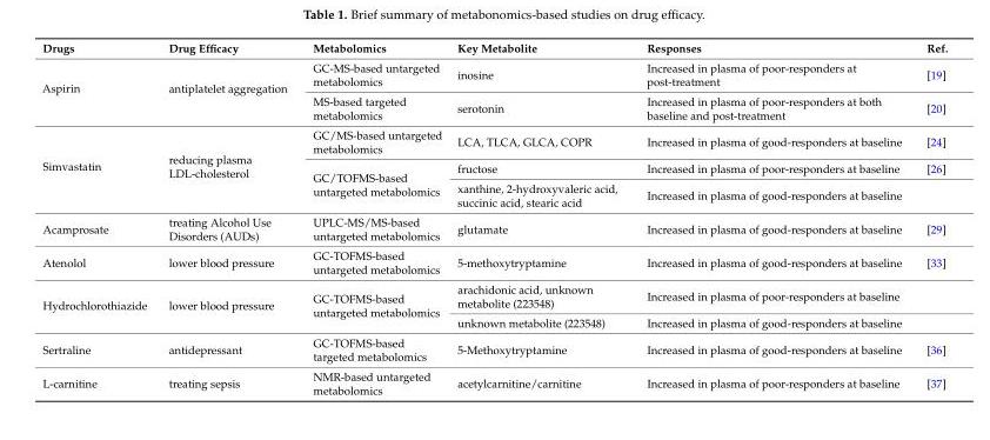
<table><thead><tr><td>Drugs</td><td>Drug Efficacy</td><td>Metabolomics</td><td>Key Metabolite</td><td>Responses</td><td>Ref.</td></tr></thead><tbody><tr><td rowspan="2">Aspirin</td><td rowspan="2">antiplatelet aggregation</td><td>GC-MS-based untargeted metabolomics</td><td>inosine</td><td>Increased in plasma of poor-responders at post-treatment</td><td>[19]</td></tr><tr><td>MS-based targeted metabolomics</td><td>serotonin</td><td>Increased in plasma of poor-responders at both baseline and post-treatment</td><td>[20]</td></tr><tr><td rowspan="3">Simvastatin</td><td rowspan="3">reducing plasma LDL-cholesterol</td><td>GC/MS-based untargeted metabolomics</td><td>LCA, TLCA, GLCA, COPR</td><td>Increased in plasma of good-responders at baseline</td><td>[24]</td></tr><tr><td rowspan="2">GC/TOFMS-based untargeted metabolomics</td><td>fructose</td><td>Increased in plasma of poor-responders at baseline</td><td>[26]</td></tr><tr><td>xanthine, 2-hydroxyvaleric acid, succinic acid, stearic acid</td><td>Increased in plasma of good-responders at baseline</td><td></td></tr><tr><td>Acamprosate</td><td>treating Alcohol Use Disorders (AUDs)</td><td>UPLC-MS/MS-based untargeted metabolomics</td><td>glutamate</td><td>Increased in plasma of good-responders at baseline</td><td>[29]</td></tr><tr><td>Atenolol</td><td>lower blood pressure</td><td>GC-TOFMS-based untargeted metabolomics</td><td>5-methoxytryptamine</td><td>Increased in plasma of good-responders at baseline</td><td>[33]</td></tr><tr><td rowspan="2">Hydrochlorothiazide</td><td rowspan="2">lower blood pressure</td><td rowspan="2">GC-TOFMS-based untargeted metabolomics</td><td>arachidonic acid, unknown metabolite (223548)</td><td>Increased in plasma of poor-responders at baseline</td><td></td></tr><tr><td>unknown metabolite (223548)</td><td>Increased in plasma of good-responders at baseline</td><td></td></tr><tr><td>Sertraline</td><td>antidepressant</td><td>GC-TOFMS-based targeted metabolomics</td><td>5-Methoxytryptamine</td><td>Increased in plasma of good-responders at baseline</td><td>[36]</td></tr><tr><td>L-carnitine</td><td>treating sepsis</td><td>NMR-based untargeted metabolomics</td><td>acetylcarnitine/carnitine</td><td>Increased in plasma of poor-responders at baseline</td><td>[37]</td></tr></tbody></table>